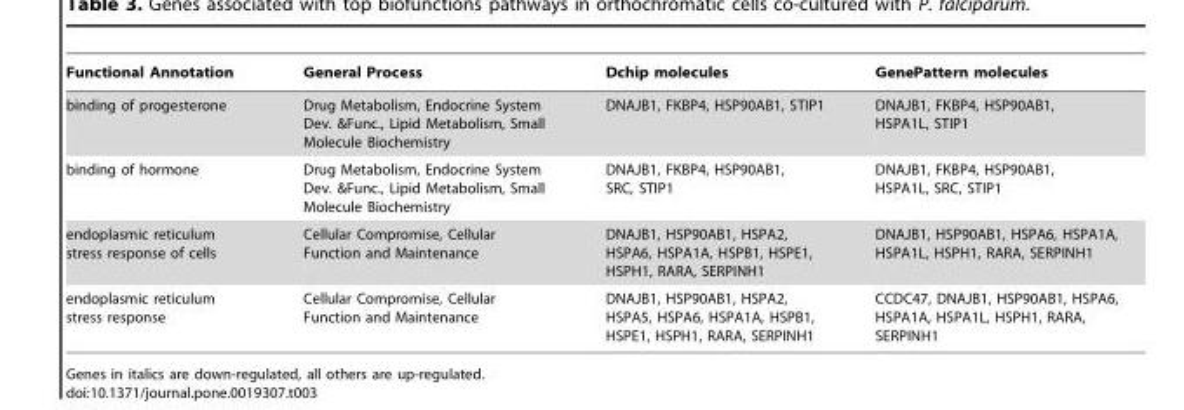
<table><thead><tr><td>Functional Annotation</td><td>General Process</td><td>Dchip molecules</td><td>GenePattern molecules</td></tr></thead><tbody><tr><td>binding of progesterone</td><td>Drug Metabolism, Endocrine System Dev. &amp;Func., Lipid Metabolism, Small Molecule Biochemistry</td><td>DNAJB1, FKBP4, HSP90AB1, STIP1</td><td>DNAJB1, FKBP4, HSP90AB1, HSPA1L, STIP1</td></tr><tr><td>binding of hormone</td><td>Drug Metabolism, Endocrine System Dev. &amp;Func., Lipid Metabolism, Small Molecule Biochemistry</td><td>DNAJB1, FKBP4, HSP90AB1, SRC, STIP1</td><td>DNAJB1, FKBP4, HSP90AB1, HSPA1L, SRC, STIP1</td></tr><tr><td>endoplasmic reticulum stress response of cells</td><td>Cellular Compromise, Cellular Function and Maintenance</td><td>DNAJB1, HSP90AB1, HSPA2, HSPA6, HSPA1A, HSPB1, HSPE1, HSPH1, RARA, SERPINH1</td><td>DNAJB1, HSP90AB1, HSPA6, HSPA1A, HSPA1L, HSPH1, RARA, SERPINH1</td></tr><tr><td>endoplasmic reticulum stress response</td><td>Cellular Compromise, Cellular Function and Maintenance</td><td>DNAJB1, HSP90AB1, HSPA2, HSPA5, HSPA6, HSPA1A, HSPB1, HSPE1, HSPH1, RARA, SERPINH1</td><td>CCDC47, DNAJB1, HSP90AB1, HSPA6, HSPA1A, HSPA1L, HSPH1, RARA, SERPINH1</td></tr></tbody></table>